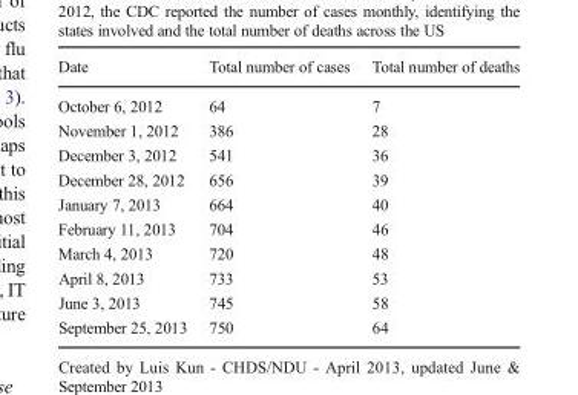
<table><thead><tr><td>Date</td><td>Total number of cases</td><td>Total number of deaths</td></tr></thead><tbody><tr><td>October 6, 2012</td><td>64</td><td>7</td></tr><tr><td>November 1, 2012</td><td>386</td><td>28</td></tr><tr><td>December 3, 2012</td><td>541</td><td>36</td></tr><tr><td>December 28, 2012</td><td>656</td><td>39</td></tr><tr><td>January 7, 2013</td><td>664</td><td>40</td></tr><tr><td>February 11, 2013</td><td>704</td><td>46</td></tr><tr><td>March 4, 2013</td><td>720</td><td>48</td></tr><tr><td>April 8, 2013</td><td>733</td><td>53</td></tr><tr><td>June 3, 2013</td><td>745</td><td>58</td></tr><tr><td>September 25, 2013</td><td>750</td><td>64</td></tr></tbody></table>